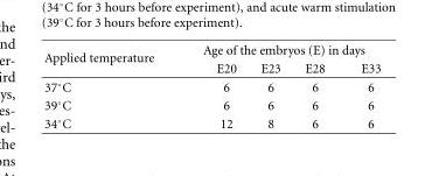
<table><thead><tr><td rowspan="2">Applied temperature</td><td colspan="4">Age of the embryos (E) in days</td></tr><tr><td>E20</td><td>E23</td><td>E28</td><td>E33</td></tr></thead><tbody><tr><td>37◦C</td><td>6</td><td>6</td><td>6</td><td>6</td></tr><tr><td>39◦C</td><td>6</td><td>6</td><td>6</td><td>6</td></tr><tr><td>34◦C</td><td>12</td><td>8</td><td>6</td><td>6</td></tr></tbody></table>